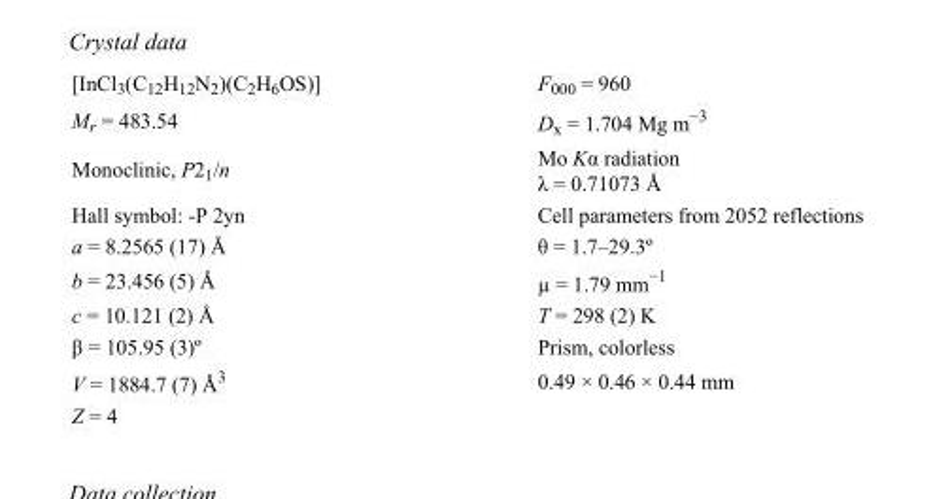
<table><tbody><tr><td>[InCl<sub>3</sub>(C<sub>12</sub>H<sub>12</sub>N<sub>2</sub>)(C<sub>2</sub>H<sub>6</sub>OS)]</td><td>F000 = 960</td></tr><tr><td>M<sub>r</sub> = 483.54</td><td>D<sub>x</sub> = 1.704 Mg m<sup>−3</sup></td></tr><tr><td>Monoclinic, P2<sub>1</sub>/n</td><td>Mo Kα radiation λ = 0.71073 Å</td></tr><tr><td>Hall symbol: -P 2yn</td><td>Cell parameters from 2052 reflections</td></tr><tr><td>a = 8.2565 (17) Å</td><td>θ = 1.7–29.3º</td></tr><tr><td>b = 23.456 (5) Å</td><td>µ = 1.79 mm<sup>−1</sup></td></tr><tr><td>c = 10.121 (2) Å</td><td>T = 298 (2) K</td></tr><tr><td>β = 105.95 (3)º</td><td>Prism, colorless</td></tr><tr><td>V = 1884.7 (7) Å<sup>3</sup></td><td>0.49 × 0.46 × 0.44 mm</td></tr><tr><td>Z = 4</td><td></td></tr></tbody></table>